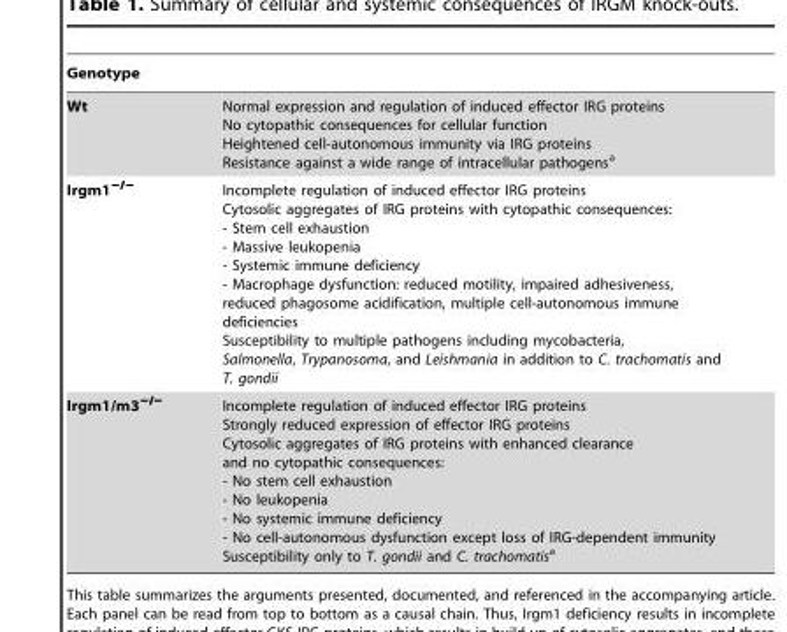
<table><thead><tr><td>Genotype</td><td></td></tr></thead><tbody><tr><td>Wt</td><td>Normal expression and regulation of induced effector IRG proteins No cytopathic consequences for cellular function Heightened cell-autonomous immunity via IRG proteins Resistance against a wide range of intracellular pathogens<sup>a</sup></td></tr><tr><td>Irgm1<sup>−/−</sup></td><td>Incomplete regulation of induced effector IRG proteins Cytosolic aggregates of IRG proteins with cytopathic consequences: - Stem cell exhaustion - Massive leukopenia - Systemic immune deficiency - Macrophage dysfunction: reduced motility, impaired adhesiveness, reduced phagosome acidification, multiple cell-autonomous immune deficiencies Susceptibility to multiple pathogens including mycobacteria, Salmonella, Trypanosoma, and Leishmania in addition to C. trachomatis and T. gondii</td></tr><tr><td>Irgm1/m3<sup>−/−</sup></td><td>Incomplete regulation of induced effector IRG proteins Strongly reduced expression of effector IRG proteins Cytosolic aggregates of IRG proteins with enhanced clearance and no cytopathic consequences: - No stem cell exhaustion - No leukopenia - No systemic immune deficiency - No cell-autonomous dysfunction except loss of IRG-dependent immunity Susceptibility only to T. gondii and C. trachomatisa</td></tr></tbody></table>